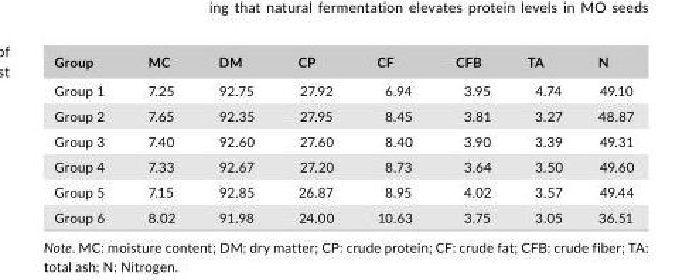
<table><thead><tr><td>Group</td><td>MC</td><td>DM</td><td>CP</td><td>CF</td><td>CFB</td><td>TA</td><td>N</td></tr></thead><tbody><tr><td>Group 1</td><td>7.25</td><td>92.75</td><td>27.92</td><td>6.94</td><td>3.95</td><td>4.74</td><td>49.10</td></tr><tr><td>Group 2</td><td>7.65</td><td>92.35</td><td>27.95</td><td>8.45</td><td>3.81</td><td>3.27</td><td>48.87</td></tr><tr><td>Group 3</td><td>7.40</td><td>92.60</td><td>27.60</td><td>8.40</td><td>3.90</td><td>3.39</td><td>49.31</td></tr><tr><td>Group 4</td><td>7.33</td><td>92.67</td><td>27.20</td><td>8.73</td><td>3.64</td><td>3.50</td><td>49.60</td></tr><tr><td>Group 5</td><td>7.15</td><td>92.85</td><td>26.87</td><td>8.95</td><td>4.02</td><td>3.57</td><td>49.44</td></tr><tr><td>Group 6</td><td>8.02</td><td>91.98</td><td>24.00</td><td>10.63</td><td>3.75</td><td>3.05</td><td>36.51</td></tr></tbody></table>